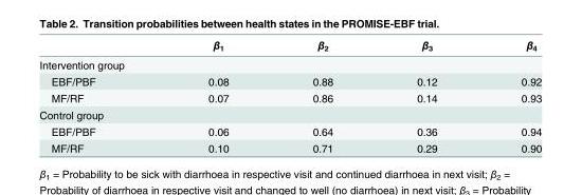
<table><thead><tr><td></td><td>β<sub>1</sub></td><td>β<sub>2</sub></td><td>β<sub>3</sub></td><td>β<sub>4</sub></td></tr></thead><tbody><tr><td colspan="5">Intervention group</td></tr><tr><td>EBF/PBF</td><td>0.08</td><td>0.88</td><td>0.12</td><td>0.92</td></tr><tr><td>MF/RF</td><td>0.07</td><td>0.86</td><td>0.14</td><td>0.93</td></tr><tr><td colspan="5">Control group</td></tr><tr><td>EBF/PBF</td><td>0.06</td><td>0.64</td><td>0.36</td><td>0.94</td></tr><tr><td>MF/RF</td><td>0.10</td><td>0.71</td><td>0.29</td><td>0.90</td></tr></tbody></table>